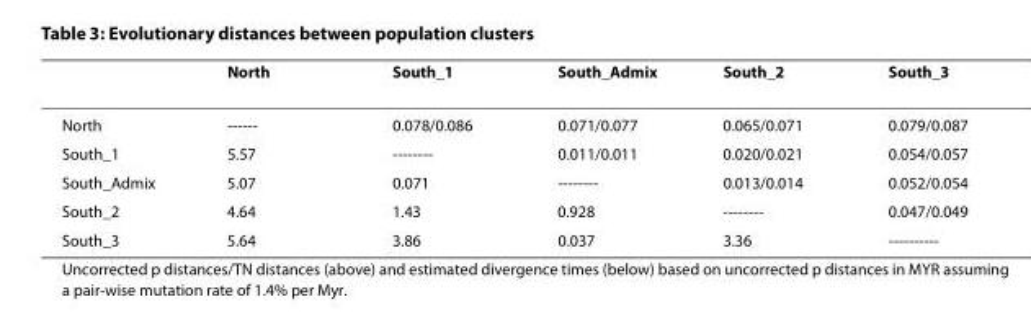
<table><thead><tr><td></td><td>North</td><td>South_1</td><td>South_Admix</td><td>South_2</td><td>South_3</td></tr></thead><tbody><tr><td>North</td><td>------</td><td>0.078/0.086</td><td>0.071/0.077</td><td>0.065/0.071</td><td>0.079/0.087</td></tr><tr><td>South_1</td><td>5.57</td><td>--------</td><td>0.011/0.011</td><td>0.020/0.021</td><td>0.054/0.057</td></tr><tr><td>South_Admix</td><td>5.07</td><td>0.071</td><td>--------</td><td>0.013/0.014</td><td>0.052/0.054</td></tr><tr><td>South_2</td><td>4.64</td><td>1.43</td><td>0.928</td><td>--------</td><td>0.047/0.049</td></tr><tr><td>South_3</td><td>5.64</td><td>3.86</td><td>0.037</td><td>3.36</td><td>----------</td></tr></tbody></table>